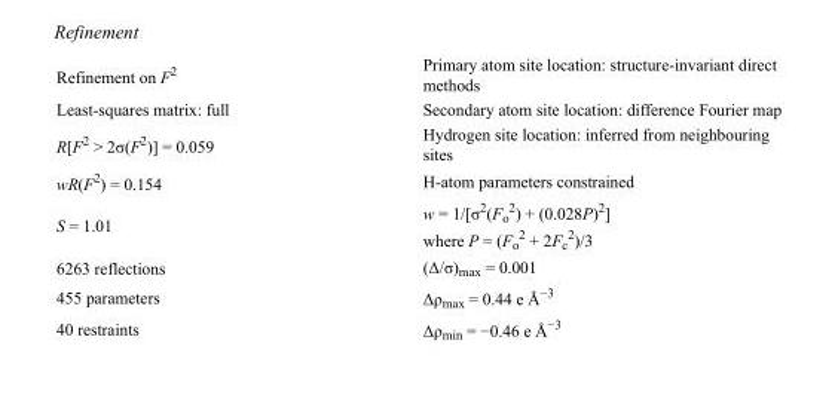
<table><tbody><tr><td>Refinement on F<sup>2</sup></td><td>Primary atom site location: structure-invariant direct methods</td></tr><tr><td>Least-squares matrix: full</td><td>Secondary atom site location: difference Fourier map</td></tr><tr><td>R[F<sup>2</sup> &gt; 2σ(F<sup>2</sup>)] = 0.059</td><td>Hydrogen site location: inferred from neighbouring sites</td></tr><tr><td>wR(F<sup>2</sup>) = 0.154</td><td>H-atom parameters constrained</td></tr><tr><td>S = 1.01</td><td>w = 1/[σ<sup>2</sup>(F<sub>o</sub> <sup>2</sup>) + (0.028P)<sup>2</sup>] where P = (F<sub>o</sub> <sup>2</sup> + 2F<sub>c</sub> <sup>2</sup>)/3</td></tr><tr><td>6263 reflections</td><td>(Δ/σ)<sub>max</sub> = 0.001</td></tr><tr><td>455 parameters</td><td>Δρ<sub>max</sub> = 0.44 e Å<sup>−3</sup></td></tr><tr><td>40 restraints</td><td>Δρ<sub>min</sub> = −0.46 e Å<sup>−3</sup></td></tr></tbody></table>